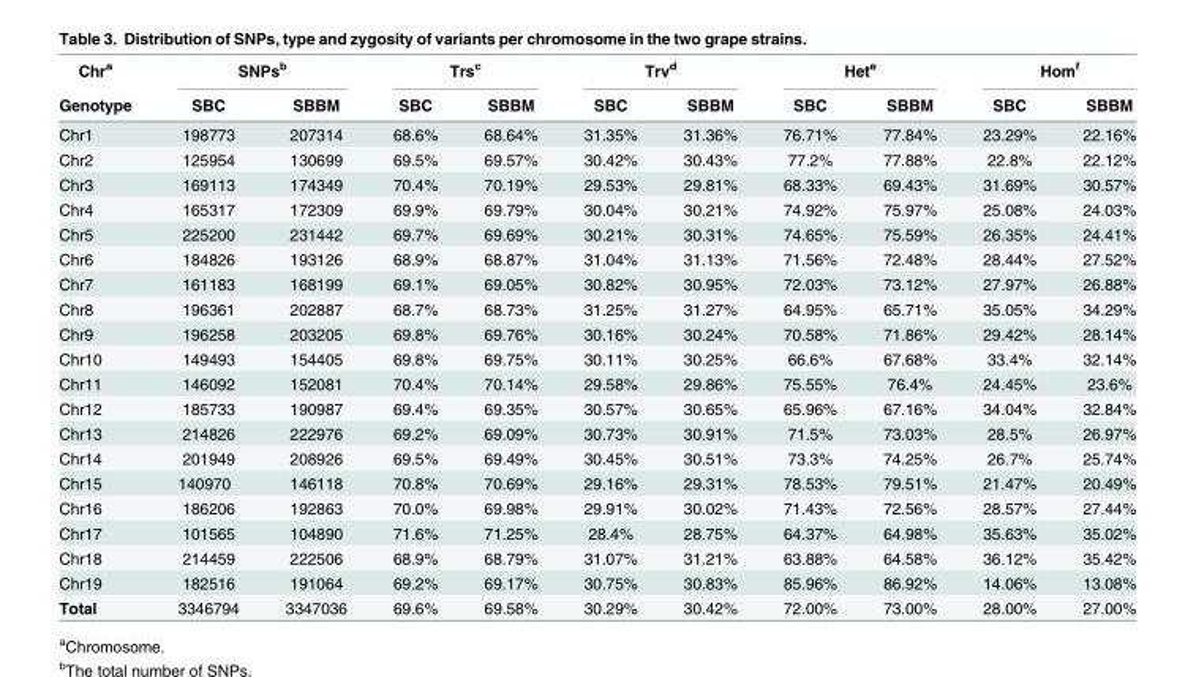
<table><thead><tr><td rowspan="2">Chr<sup>a</sup> Genotype</td><td colspan="2">SNPs<sup>b</sup></td><td colspan="2">Trs<sup>c</sup></td><td colspan="2">Trv<sup>d</sup></td><td colspan="2">Het<sup>e</sup></td><td colspan="2">Hom<sup>f</sup></td></tr><tr><td>SBC</td><td>SBBM</td><td>SBC</td><td>SBBM</td><td>SBC</td><td>SBBM</td><td>SBC</td><td>SBBM</td><td>SBC</td><td>SBBM</td></tr></thead><tbody><tr><td>Chr1</td><td>198773</td><td>207314</td><td>68.6%</td><td>68.64%</td><td>31.35%</td><td>31.36%</td><td>76.71%</td><td>77.84%</td><td>23.29%</td><td>22.16%</td></tr><tr><td>Chr2</td><td>125954</td><td>130699</td><td>69.5%</td><td>69.57%</td><td>30.42%</td><td>30.43%</td><td>77.2%</td><td>77.88%</td><td>22.8%</td><td>22.12%</td></tr><tr><td>Chr3</td><td>169113</td><td>174349</td><td>70.4%</td><td>70.19%</td><td>29.53%</td><td>29.81%</td><td>68.33%</td><td>69.43%</td><td>31.69%</td><td>30.57%</td></tr><tr><td>Chr4</td><td>165317</td><td>172309</td><td>69.9%</td><td>69.79%</td><td>30.04%</td><td>30.21%</td><td>74.92%</td><td>75.97%</td><td>25.08%</td><td>24.03%</td></tr><tr><td>Chr5</td><td>225200</td><td>231442</td><td>69.7%</td><td>69.69%</td><td>30.21%</td><td>30.31%</td><td>74.65%</td><td>75.59%</td><td>26.35%</td><td>24.41%</td></tr><tr><td>Chr6</td><td>184826</td><td>193126</td><td>68.9%</td><td>68.87%</td><td>31.04%</td><td>31.13%</td><td>71.56%</td><td>72.48%</td><td>28.44%</td><td>27.52%</td></tr><tr><td>Chr7</td><td>161183</td><td>168199</td><td>69.1%</td><td>69.05%</td><td>30.82%</td><td>30.95%</td><td>72.03%</td><td>73.12%</td><td>27.97%</td><td>26.88%</td></tr><tr><td>Chr8</td><td>196361</td><td>202887</td><td>68.7%</td><td>68.73%</td><td>31.25%</td><td>31.27%</td><td>64.95%</td><td>65.71%</td><td>35.05%</td><td>34.29%</td></tr><tr><td>Chr9</td><td>196258</td><td>203205</td><td>69.8%</td><td>69.76%</td><td>30.16%</td><td>30.24%</td><td>70.58%</td><td>71.86%</td><td>29.42%</td><td>28.14%</td></tr><tr><td>Chr10</td><td>149493</td><td>154405</td><td>69.8%</td><td>69.75%</td><td>30.11%</td><td>30.25%</td><td>66.6%</td><td>67.68%</td><td>33.4%</td><td>32.14%</td></tr><tr><td>Chr11</td><td>146092</td><td>152081</td><td>70.4%</td><td>70.14%</td><td>29.58%</td><td>29.86%</td><td>75.55%</td><td>76.4%</td><td>24.45%</td><td>23.6%</td></tr><tr><td>Chr12</td><td>185733</td><td>190987</td><td>69.4%</td><td>69.35%</td><td>30.57%</td><td>30.65%</td><td>65.96%</td><td>67.16%</td><td>34.04%</td><td>32.84%</td></tr><tr><td>Chr13</td><td>214826</td><td>222976</td><td>69.2%</td><td>69.09%</td><td>30.73%</td><td>30.91%</td><td>71.5%</td><td>73.03%</td><td>28.5%</td><td>26.97%</td></tr><tr><td>Chr14</td><td>201949</td><td>208926</td><td>69.5%</td><td>69.49%</td><td>30.45%</td><td>30.51%</td><td>73.3%</td><td>74.25%</td><td>26.7%</td><td>25.74%</td></tr><tr><td>Chr15</td><td>140970</td><td>146118</td><td>70.8%</td><td>70.69%</td><td>29.16%</td><td>29.31%</td><td>78.53%</td><td>79.51%</td><td>21.47%</td><td>20.49%</td></tr><tr><td>Chr16</td><td>186206</td><td>192863</td><td>70.0%</td><td>69.98%</td><td>29.91%</td><td>30.02%</td><td>71.43%</td><td>72.56%</td><td>28.57%</td><td>27.44%</td></tr><tr><td>Chr17</td><td>101565</td><td>104890</td><td>71.6%</td><td>71.25%</td><td>28.4%</td><td>28.75%</td><td>64.37%</td><td>64.98%</td><td>35.63%</td><td>35.02%</td></tr><tr><td>Chr18</td><td>214459</td><td>222506</td><td>68.9%</td><td>68.79%</td><td>31.07%</td><td>31.21%</td><td>63.88%</td><td>64.58%</td><td>36.12%</td><td>35.42%</td></tr><tr><td>Chr19</td><td>182516</td><td>191064</td><td>69.2%</td><td>69.17%</td><td>30.75%</td><td>30.83%</td><td>85.96%</td><td>86.92%</td><td>14.06%</td><td>13.08%</td></tr><tr><td>Total</td><td>3346794</td><td>3347036</td><td>69.6%</td><td>69.58%</td><td>30.29%</td><td>30.42%</td><td>72.00%</td><td>73.00%</td><td>28.00%</td><td>27.00%</td></tr></tbody></table>